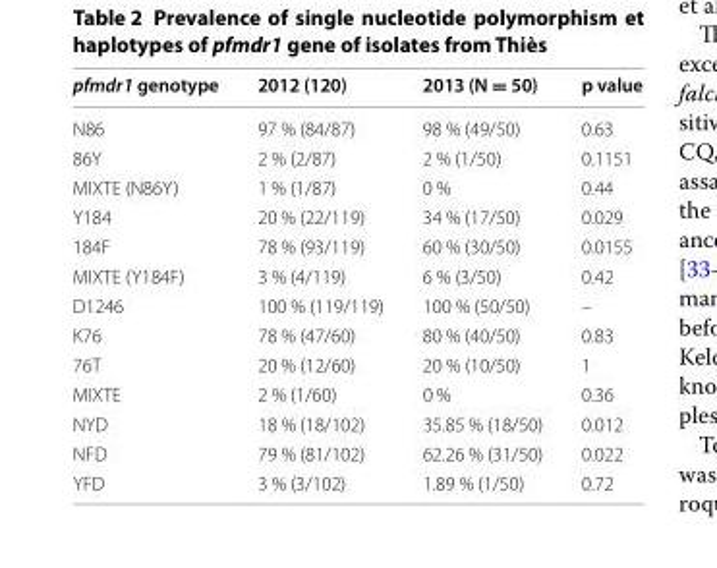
<table><thead><tr><td>pfmdr1 genotype</td><td>2012 (120)</td><td>2013 (N = 50)</td><td>p value</td></tr></thead><tbody><tr><td>N86</td><td>97 % (84/87)</td><td>98 % (49/50)</td><td>0.63</td></tr><tr><td>86Y</td><td>2 % (2/87)</td><td>2 % (1/50)</td><td>0.1151</td></tr><tr><td>MIXTE (N86Y)</td><td>1 % (1/87)</td><td>0 %</td><td>0.44</td></tr><tr><td>Y184</td><td>20 % (22/119)</td><td>34 % (17/50)</td><td>0.029</td></tr><tr><td>184F</td><td>78 % (93/119)</td><td>60 % (30/50)</td><td>0.0155</td></tr><tr><td>MIXTE (Y184F)</td><td>3 % (4/119)</td><td>6 % (3/50)</td><td>0.42</td></tr><tr><td>D1246</td><td>100 % (119/119)</td><td>100 % (50/50)</td><td>–</td></tr><tr><td>K76</td><td>78 % (47/60)</td><td>80 % (40/50)</td><td>0.83</td></tr><tr><td>76T</td><td>20 % (12/60)</td><td>20 % (10/50)</td><td>1</td></tr><tr><td>MIXTE</td><td>2 % (1/60)</td><td>0 %</td><td>0.36</td></tr><tr><td>NYD</td><td>18 % (18/102)</td><td>35.85 % (18/50)</td><td>0.012</td></tr><tr><td>NFD</td><td>79 % (81/102)</td><td>62.26 % (31/50)</td><td>0.022</td></tr><tr><td>YFD</td><td>3 % (3/102)</td><td>1.89 % (1/50)</td><td>0.72</td></tr></tbody></table>